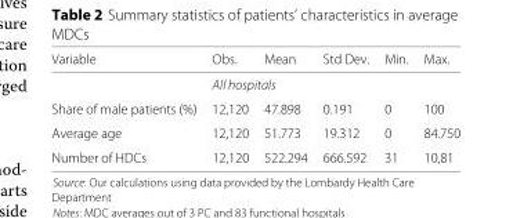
<table><thead><tr><td>Variable</td><td>Obs.</td><td>Mean</td><td>Std Dev.</td><td>Min.</td><td>Max.</td></tr></thead><tbody><tr><td colspan="6">All hospitals</td></tr><tr><td>Share of male patients (%)</td><td>12,120</td><td>47.898</td><td>0.191</td><td>0</td><td>100</td></tr><tr><td>Average age</td><td>12,120</td><td>51.773</td><td>19.312</td><td>0</td><td>84.750</td></tr><tr><td>Number of HDCs</td><td>12,120</td><td>522.294</td><td>666.592</td><td>31</td><td>10,81</td></tr></tbody></table>